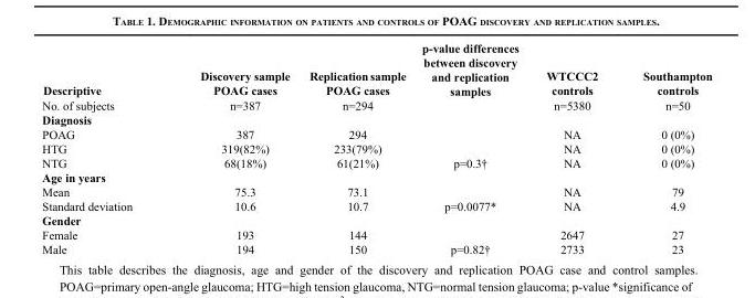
<table><thead><tr><td>Descriptive</td><td>Discovery sample POAG cases</td><td>Replication sample POAG cases</td><td>p-value differences between discovery and replication samples</td><td>WTCCC2 controls</td><td>Southampton controls</td></tr></thead><tbody><tr><td>No. of subjects</td><td>n=387</td><td>n=294</td><td></td><td>n=5380</td><td>n=50</td></tr><tr><td colspan="6">Diagnosis</td></tr><tr><td>POAG</td><td>387</td><td>294</td><td></td><td>NA</td><td>0 (0%)</td></tr><tr><td>HTG</td><td>319(82%)</td><td>233(79%)</td><td></td><td>NA</td><td>0 (0%)</td></tr><tr><td>NTG</td><td>68(18%)</td><td>61(21%)</td><td>p=0.3†</td><td>NA</td><td>0 (0%)</td></tr><tr><td colspan="6">Age in years</td></tr><tr><td>Mean</td><td>75.3</td><td>73.1</td><td></td><td>NA</td><td>79</td></tr><tr><td>Standard deviation</td><td>10.6</td><td>10.7</td><td>p=0.0077*</td><td>NA</td><td>4.9</td></tr><tr><td colspan="6">Gender</td></tr><tr><td>Female</td><td>193</td><td>144</td><td></td><td>2647</td><td>27</td></tr><tr><td>Male</td><td>194</td><td>150</td><td>p=0.82†</td><td>2733</td><td>23</td></tr></tbody></table>